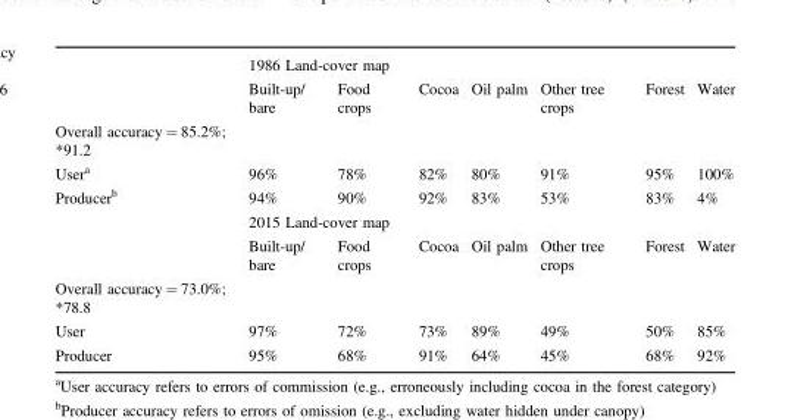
<table><thead><tr><td rowspan="2"></td><td colspan="7">1986 Land-cover map</td></tr><tr><td>Built-up/ bare</td><td>Food crops</td><td>Cocoa</td><td>Oil palm</td><td>Other tree crops</td><td>Forest</td><td>Water</td></tr></thead><tbody><tr><td colspan="8">Overall accuracy = 85.2%; *91.2</td></tr><tr><td>User<sup>a</sup></td><td>96%</td><td>78%</td><td>82%</td><td>80%</td><td>91%</td><td>95%</td><td>100%</td></tr><tr><td rowspan="3">Producer<sup>b</sup></td><td>94%</td><td>90%</td><td>92%</td><td>83%</td><td>53%</td><td>83%</td><td>4%</td></tr><tr><td colspan="7">2015 Land-cover map</td></tr><tr><td>Built-up/ bare</td><td>Food crops</td><td>Cocoa</td><td>Oil palm</td><td>Other tree crops</td><td>Forest</td><td>Water</td></tr><tr><td colspan="8">Overall accuracy = 73.0%; *78.8</td></tr><tr><td>User</td><td>97%</td><td>72%</td><td>73%</td><td>89%</td><td>49%</td><td>50%</td><td>85%</td></tr><tr><td>Producer</td><td>95%</td><td>68%</td><td>91%</td><td>64%</td><td>45%</td><td>68%</td><td>92%</td></tr></tbody></table>